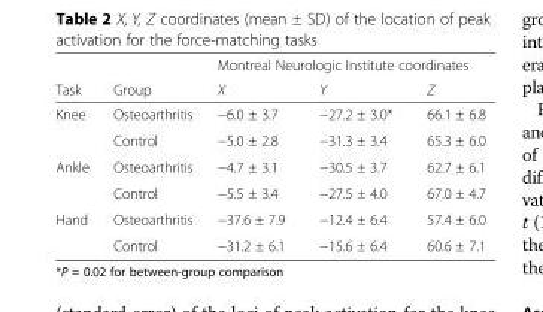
<table><thead><tr><td rowspan="2">Task</td><td rowspan="2">Group</td><td colspan="3">Montreal Neurologic Institute coordinates</td></tr><tr><td>X</td><td>Y</td><td>Z</td></tr></thead><tbody><tr><td rowspan="2">Knee</td><td>Osteoarthritis</td><td>−6.0 ± 3.7</td><td>−27.2 ± 3.0*</td><td>66.1 ± 6.8</td></tr><tr><td>Control</td><td>−5.0 ± 2.8</td><td>−31.3 ± 3.4</td><td>65.3 ± 6.0</td></tr><tr><td rowspan="2">Ankle</td><td>Osteoarthritis</td><td>−4.7 ± 3.1</td><td>−30.5 ± 3.7</td><td>62.7 ± 6.1</td></tr><tr><td>Control</td><td>−5.5 ± 3.4</td><td>−27.5 ± 4.0</td><td>67.0 ± 4.7</td></tr><tr><td rowspan="2">Hand</td><td>Osteoarthritis</td><td>−37.6 ± 7.9</td><td>−12.4 ± 6.4</td><td>57.4 ± 6.0</td></tr><tr><td>Control</td><td>−31.2 ± 6.1</td><td>−15.6 ± 6.4</td><td>60.6 ± 7.1</td></tr></tbody></table>